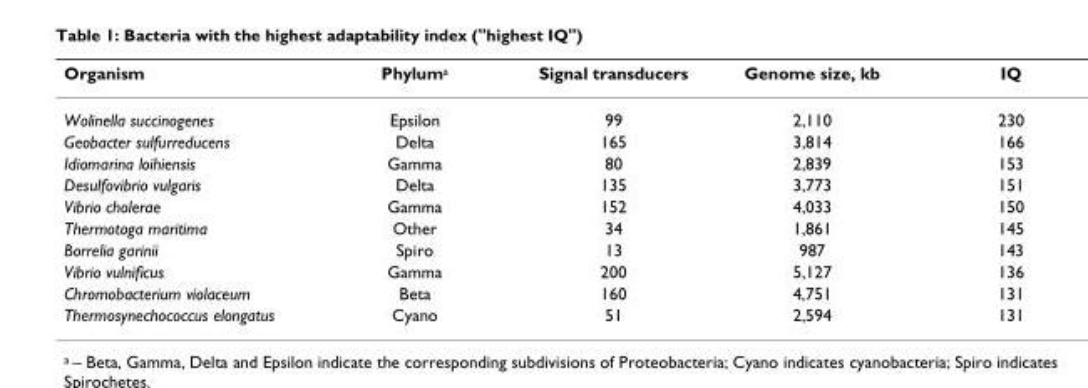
<table><thead><tr><td>Organism</td><td>Phyluma</td><td>Signal transducers</td><td>Genome size, kb</td><td>IQ</td></tr></thead><tbody><tr><td>Wolinella succinogenes</td><td>Epsilon</td><td>99</td><td>2,110</td><td>230</td></tr><tr><td>Geobacter sulfurreducens</td><td>Delta</td><td>165</td><td>3,814</td><td>166</td></tr><tr><td>Idiomarina loihiensis</td><td>Gamma</td><td>80</td><td>2,839</td><td>153</td></tr><tr><td>Desulfovibrio vulgaris</td><td>Delta</td><td>135</td><td>3,773</td><td>151</td></tr><tr><td>Vibrio cholerae</td><td>Gamma</td><td>152</td><td>4,033</td><td>150</td></tr><tr><td>Thermotoga maritima</td><td>Other</td><td>34</td><td>1,861</td><td>145</td></tr><tr><td>Borrelia garinii</td><td>Spiro</td><td>13</td><td>987</td><td>143</td></tr><tr><td>Vibrio vulnificus</td><td>Gamma</td><td>200</td><td>5,127</td><td>136</td></tr><tr><td>Chromobacterium violaceum</td><td>Beta</td><td>160</td><td>4,751</td><td>131</td></tr><tr><td>Thermosynechococcus elongatus</td><td>Cyano</td><td>51</td><td>2,594</td><td>131</td></tr></tbody></table>